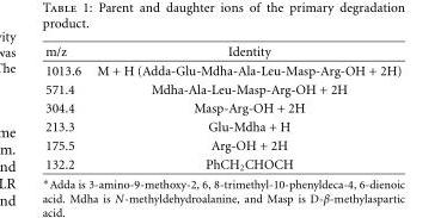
<table><thead><tr><td>m/z</td><td>Identity</td></tr></thead><tbody><tr><td>1013.6</td><td>M + H (Adda-Glu-Mdha-Ala-Leu-Masp-Arg-OH + 2H)</td></tr><tr><td>571.4</td><td>Mdha-Ala-Leu-Masp-Arg-OH + 2H</td></tr><tr><td>304.4</td><td>Masp-Arg-OH + 2H</td></tr><tr><td>213.3</td><td>Glu-Mdha + H</td></tr><tr><td>175.5</td><td>Arg-OH + 2H</td></tr><tr><td>132.2</td><td>PhCH<sub>2</sub>CHOCH</td></tr></tbody></table>